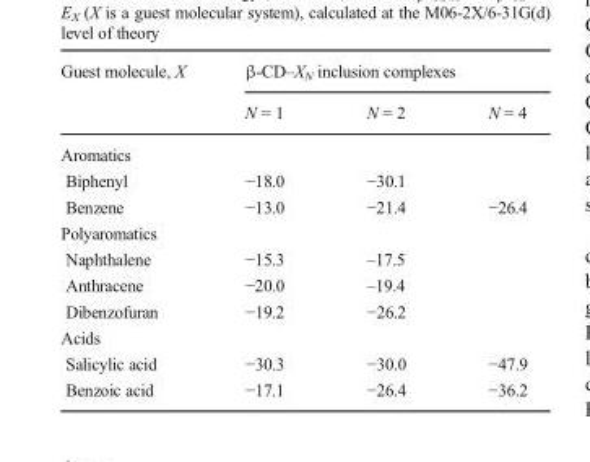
<table><thead><tr><td rowspan="2">Guest molecule, X</td><td colspan="3">β-CD–X<sub>N</sub> inclusion complexes</td></tr><tr><td>N = 1</td><td>N = 2</td><td>N = 4</td></tr></thead><tbody><tr><td colspan="4">Aromatics</td></tr><tr><td>Biphenyl</td><td>−18.0</td><td>−30.1</td><td></td></tr><tr><td>Benzene</td><td>−13.0</td><td>−21.4</td><td>−26.4</td></tr><tr><td colspan="4">Polyaromatics</td></tr><tr><td>Naphthalene</td><td>−15.3</td><td>–17.5</td><td></td></tr><tr><td>Anthracene</td><td>−20.0</td><td>–19.4</td><td></td></tr><tr><td>Dibenzofuran</td><td>−19.2</td><td>−26.2</td><td></td></tr><tr><td colspan="4">Acids</td></tr><tr><td>Salicylic acid</td><td>−30.3</td><td>−30.0</td><td>−47.9</td></tr><tr><td>Benzoic acid</td><td>−17.1</td><td>−26.4</td><td>−36.2</td></tr></tbody></table>